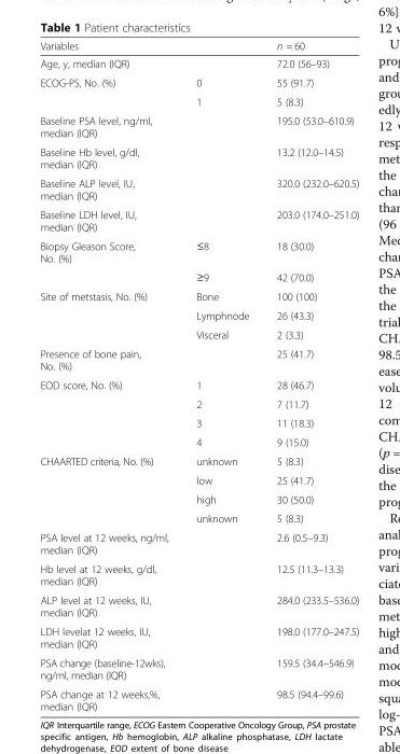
<table><thead><tr><td>Variables</td><td></td><td>n = 60</td></tr></thead><tbody><tr><td>Age, y, median (IQR)</td><td></td><td>72.0 (56–93)</td></tr><tr><td rowspan="2">ECOG-PS, No. (%)</td><td>0</td><td>55 (91.7)</td></tr><tr><td>1</td><td>5 (8.3)</td></tr><tr><td>Baseline PSA level, ng/ml, median (IQR)</td><td></td><td>195.0 (53.0–610.9)</td></tr><tr><td>Baseline Hb level, g/dl, median (IQR)</td><td></td><td>13.2 (12.0–14.5)</td></tr><tr><td>Baseline ALP level, IU, median (IQR)</td><td></td><td>320.0 (232.0–620.5)</td></tr><tr><td>Baseline LDH level, IU, median (IQR)</td><td></td><td>203.0 (174.0–251.0)</td></tr><tr><td rowspan="2">Biopsy Gleason Score, No. (%)</td><td>≤8</td><td>18 (30.0)</td></tr><tr><td>≥9</td><td>42 (70.0)</td></tr><tr><td rowspan="3">Site of metstasis, No. (%)</td><td>Bone</td><td>100 (100)</td></tr><tr><td>Lymphnode</td><td>26 (43.3)</td></tr><tr><td>Visceral</td><td>2 (3.3)</td></tr><tr><td>Presence of bone pain, No. (%)</td><td></td><td>25 (41.7)</td></tr><tr><td rowspan="4">EOD score, No. (%)</td><td>1</td><td>28 (46.7)</td></tr><tr><td>2</td><td>7 (11.7)</td></tr><tr><td>3</td><td>11 (18.3)</td></tr><tr><td>4</td><td>9 (15.0)</td></tr><tr><td rowspan="4">CHAARTED criteria, No. (%)</td><td>unknown</td><td>5 (8.3)</td></tr><tr><td>low</td><td>25 (41.7)</td></tr><tr><td>high</td><td>30 (50.0)</td></tr><tr><td>unknown</td><td>5 (8.3)</td></tr><tr><td>PSA level at 12 weeks, ng/ml, median (IQR)</td><td></td><td>2.6 (0.5–9.3)</td></tr><tr><td>Hb level at 12 weeks, g/dl, median (IQR)</td><td></td><td>12.5 (11.3–13.3)</td></tr><tr><td>ALP level at 12 weeks, IU, median (IQR)</td><td></td><td>284.0 (233.5–536.0)</td></tr><tr><td>LDH levelat 12 weeks, IU, median (IQR)</td><td></td><td>198.0 (177.0–247.5)</td></tr><tr><td>PSA change (baseline-12wks), ng/ml, median (IQR)</td><td></td><td>159.5 (34.4–546.9)</td></tr><tr><td>PSA change at 12 weeks,%, median (IQR)</td><td></td><td>98.5 (94.4–99.6)</td></tr></tbody></table>